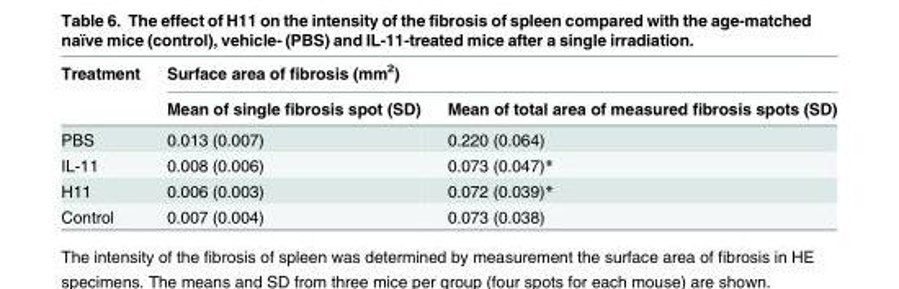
<table><thead><tr><td rowspan="2">Treatment</td><td colspan="2">Surface area of fibrosis (mm<sup>2</sup>)</td></tr><tr><td>Mean of single fibrosis spot (SD)</td><td>Mean of total area of measured fibrosis spots (SD)</td></tr></thead><tbody><tr><td>PBS</td><td>0.013 (0.007)</td><td>0.220 (0.064)</td></tr><tr><td>IL-11</td><td>0.008 (0.006)</td><td>0.073 (0.047)*</td></tr><tr><td>H11</td><td>0.006 (0.003)</td><td>0.072 (0.039)*</td></tr><tr><td>Control</td><td>0.007 (0.004)</td><td>0.073 (0.038)</td></tr></tbody></table>